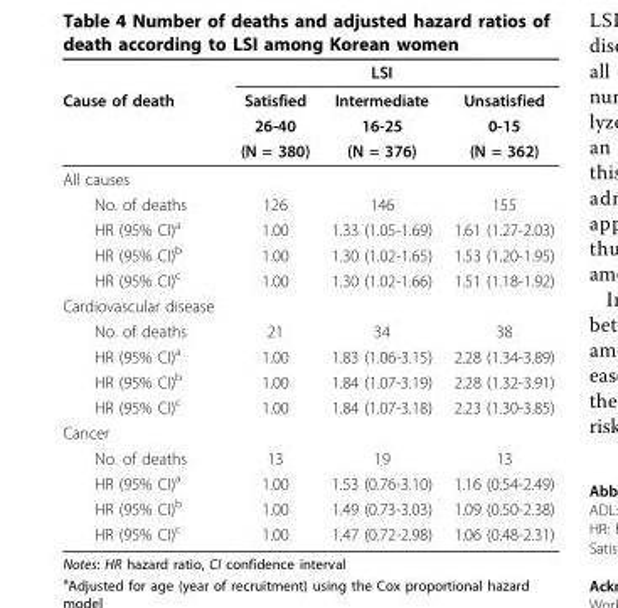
<table><thead><tr><td rowspan="4">Cause of death</td><td rowspan="4">Satisfied 26-40 (N = 380)</td><td rowspan="4">LSI Intermediate 16-25 (N = 376)</td><td rowspan="4">Unsatisfied 0-15 (N = 362)</td></tr><tr></tr><tr></tr><tr></tr></thead><tbody><tr><td colspan="4">All causes</td></tr><tr><td>No. of deaths</td><td>126</td><td>146</td><td>155</td></tr><tr><td>HR (95% CI)<sup>a</sup></td><td>1.00</td><td>1.33 (1.05-1.69)</td><td>1.61 (1.27-2.03)</td></tr><tr><td>HR (95% CI)<sup>b</sup></td><td>1.00</td><td>1.30 (1.02-1.65)</td><td>1.53 (1.20-1.95)</td></tr><tr><td>HR (95% CI)<sup>c</sup></td><td>1.00</td><td>1.30 (1.02-1.66)</td><td>1.51 (1.18-1.92)</td></tr><tr><td colspan="4">Cardiovascular disease</td></tr><tr><td>No. of deaths</td><td>21</td><td>34</td><td>38</td></tr><tr><td>HR (95% CI)<sup>a</sup></td><td>1.00</td><td>1.83 (1.06-3.15)</td><td>2.28 (1.34-3.89)</td></tr><tr><td>HR (95% CI)<sup>b</sup></td><td>1.00</td><td>1.84 (1.07-3.19)</td><td>2.28 (1.32-3.91)</td></tr><tr><td>HR (95% CI)<sup>c</sup></td><td>1.00</td><td>1.84 (1.07-3.18)</td><td>2.23 (1.30-3.85)</td></tr><tr><td colspan="4">Cancer</td></tr><tr><td>No. of deaths</td><td>13</td><td>19</td><td>13</td></tr><tr><td>HR (95% CI)<sup>a</sup></td><td>1.00</td><td>1.53 (0.76-3.10)</td><td>1.16 (0.54-2.49)</td></tr><tr><td>HR (95% CI)<sup>b</sup></td><td>1.00</td><td>1.49 (0.73-3.03)</td><td>1.09 (0.50-2.38)</td></tr><tr><td>HR (95% CI)<sup>c</sup></td><td>1.00</td><td>1.47 (0.72-2.98)</td><td>1.06 (0.48-2.31)</td></tr></tbody></table>